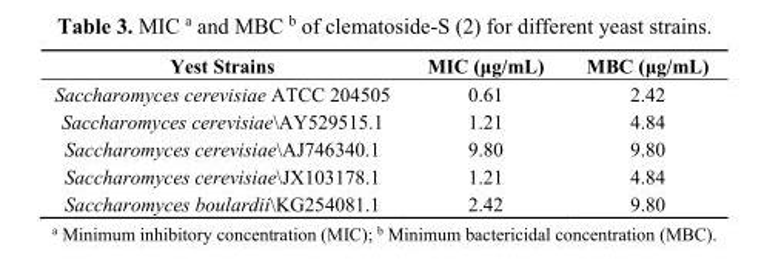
<table><thead><tr><td>Yest Strains</td><td>MIC (μg/mL)</td><td>MBC (μg/mL)</td></tr></thead><tbody><tr><td>Saccharomyces cerevisiae ATCC 204505</td><td>0.61</td><td>2.42</td></tr><tr><td>Saccharomyces cerevisiae\AY529515.1</td><td>1.21</td><td>4.84</td></tr><tr><td>Saccharomyces cerevisiae\AJ746340.1</td><td>9.80</td><td>9.80</td></tr><tr><td>Saccharomyces cerevisiae\JX103178.1</td><td>1.21</td><td>4.84</td></tr><tr><td>Saccharomyces boulardii\KG254081.1</td><td>2.42</td><td>9.80</td></tr></tbody></table>